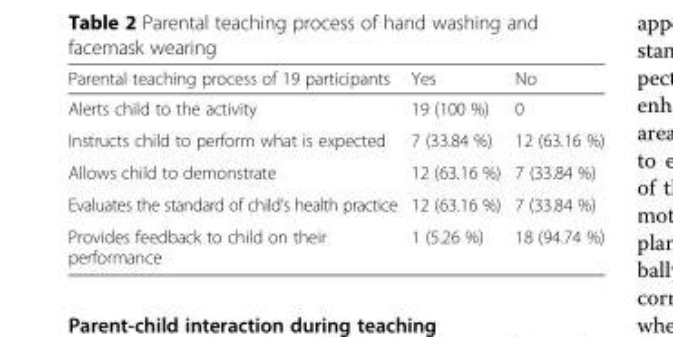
<table><thead><tr><td>Parental teaching process of 19 participants</td><td>Yes</td><td>No</td></tr></thead><tbody><tr><td>Alerts child to the activity</td><td>19 (100 %)</td><td>0</td></tr><tr><td>Instructs child to perform what is expected</td><td>7 (33.84 %)</td><td>12 (63.16 %)</td></tr><tr><td>Allows child to demonstrate</td><td>12 (63.16 %)</td><td>7 (33.84 %)</td></tr><tr><td>Evaluates the standard of child’s health practice</td><td>12 (63.16 %)</td><td>7 (33.84 %)</td></tr><tr><td>Provides feedback to child on their performance</td><td>1 (5.26 %)</td><td>18 (94.74 %)</td></tr></tbody></table>